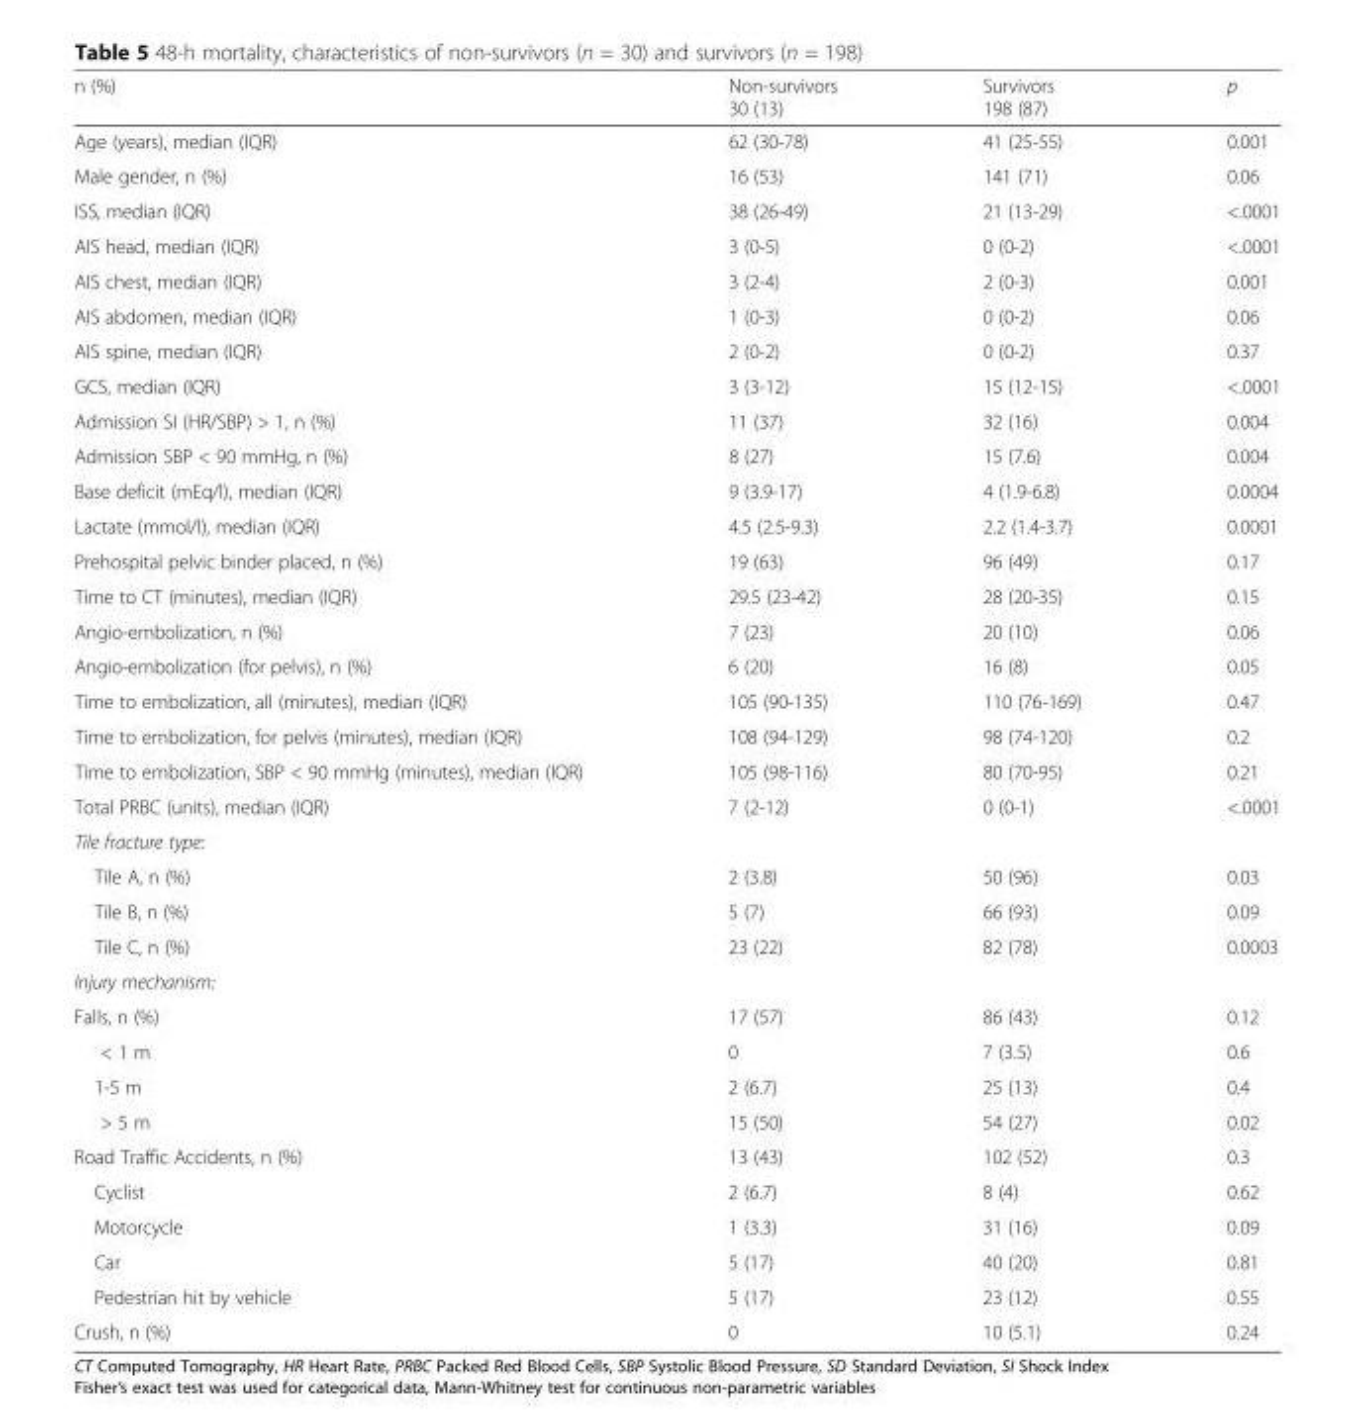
<table><thead><tr><td>n (%)</td><td>Non-survivors 30 (13)</td><td>Survivors 198 (87)</td><td>p</td></tr></thead><tbody><tr><td>Age (years), median (IQR)</td><td>62 (30-78)</td><td>41 (25-55)</td><td>0.001</td></tr><tr><td>Male gender, n (%)</td><td>16 (53)</td><td>141 (71)</td><td>0.06</td></tr><tr><td>ISS, median (IQR)</td><td>38 (26-49)</td><td>21 (13-29)</td><td>&lt;.0001</td></tr><tr><td>AIS head, median (IQR)</td><td>3 (0-5)</td><td>0 (0-2)</td><td>&lt;.0001</td></tr><tr><td>AIS chest, median (IQR)</td><td>3 (2-4)</td><td>2 (0-3)</td><td>0.001</td></tr><tr><td>AIS abdomen, median (IQR)</td><td>1 (0-3)</td><td>0 (0-2)</td><td>0.06</td></tr><tr><td>AIS spine, median (IQR)</td><td>2 (0-2)</td><td>0 (0-2)</td><td>0.37</td></tr><tr><td>GCS, median (IQR)</td><td>3 (3-12)</td><td>15 (12-15)</td><td>&lt;.0001</td></tr><tr><td>Admission SI (HR/SBP) &gt; 1, n (%)</td><td>11 (37)</td><td>32 (16)</td><td>0.004</td></tr><tr><td>Admission SBP &lt; 90 mmHg, n (%)</td><td>8 (27)</td><td>15 (7.6)</td><td>0.004</td></tr><tr><td>Base deficit (mEq/l), median (IQR)</td><td>9 (3.9-17)</td><td>4 (1.9-6.8)</td><td>0.0004</td></tr><tr><td>Lactate (mmol/l), median (IQR)</td><td>4.5 (2.5-9.3)</td><td>2.2 (1.4-3.7)</td><td>0.0001</td></tr><tr><td>Prehospital pelvic binder placed, n (%)</td><td>19 (63)</td><td>96 (49)</td><td>0.17</td></tr><tr><td>Time to CT (minutes), median (IQR)</td><td>29.5 (23-42)</td><td>28 (20-35)</td><td>0.15</td></tr><tr><td>Angio-embolization, n (%)</td><td>7 (23)</td><td>20 (10)</td><td>0.06</td></tr><tr><td>Angio-embolization (for pelvis), n (%)</td><td>6 (20)</td><td>16 (8)</td><td>0.05</td></tr><tr><td>Time to embolization, all (minutes), median (IQR)</td><td>105 (90-135)</td><td>110 (76-169)</td><td>0.47</td></tr><tr><td>Time to embolization, for pelvis (minutes), median (IQR)</td><td>108 (94-129)</td><td>98 (74-120)</td><td>0.2</td></tr><tr><td>Time to embolization, SBP &lt; 90 mmHg (minutes), median (IQR)</td><td>105 (98-116)</td><td>80 (70-95)</td><td>0.21</td></tr><tr><td>Total PRBC (units), median (IQR)</td><td>7 (2-12)</td><td>0 (0-1)</td><td>&lt;.0001</td></tr><tr><td colspan="4">Tile fracture type:</td></tr><tr><td>Tile A, n (%)</td><td>2 (3.8)</td><td>50 (96)</td><td>0.03</td></tr><tr><td>Tile B, n (%)</td><td>5 (7)</td><td>66 (93)</td><td>0.09</td></tr><tr><td>Tile C, n (%)</td><td>23 (22)</td><td>82 (78)</td><td>0.0003</td></tr><tr><td colspan="4">Injury mechanism:</td></tr><tr><td>Falls, n (%)</td><td>17 (57)</td><td>86 (43)</td><td>0.12</td></tr><tr><td>&lt; 1 m</td><td>0</td><td>7 (3.5)</td><td>0.6</td></tr><tr><td>1-5 m</td><td>2 (6.7)</td><td>25 (13)</td><td>0.4</td></tr><tr><td>&gt; 5 m</td><td>15 (50)</td><td>54 (27)</td><td>0.02</td></tr><tr><td>Road Traffic Accidents, n (%)</td><td>13 (43)</td><td>102 (52)</td><td>0.3</td></tr><tr><td>Cyclist</td><td>2 (6.7)</td><td>8 (4)</td><td>0.62</td></tr><tr><td>Motorcycle</td><td>1 (3.3)</td><td>31 (16)</td><td>0.09</td></tr><tr><td>Car</td><td>5 (17)</td><td>40 (20)</td><td>0.81</td></tr><tr><td>Pedestrian hit by vehicle</td><td>5 (17)</td><td>23 (12)</td><td>0.55</td></tr><tr><td>Crush, n (%)</td><td>0</td><td>10 (5.1)</td><td>0.24</td></tr></tbody></table>